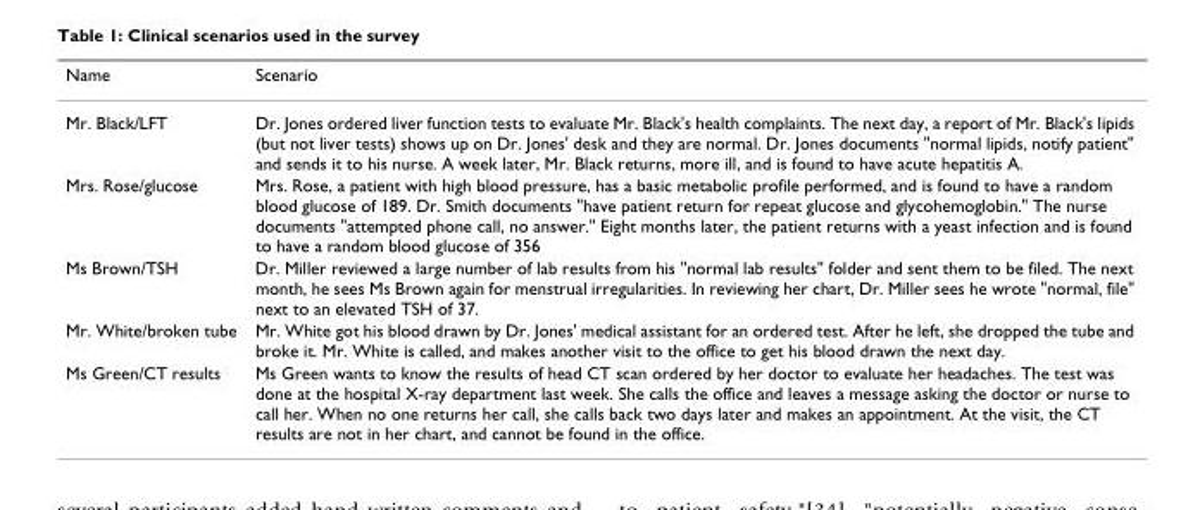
<table><thead><tr><td>Name</td><td>Scenario</td></tr></thead><tbody><tr><td>Mr. Black/LFT</td><td>Dr. Jones ordered liver function tests to evaluate Mr. Black&#x27;s health complaints. The next day, a report of Mr. Black&#x27;s lipids (but not liver tests) shows up on Dr. Jones&#x27; desk and they are normal. Dr. Jones documents &quot;normal lipids, notify patient&quot; and sends it to his nurse. A week later, Mr. Black returns, more ill, and is found to have acute hepatitis A.</td></tr><tr><td>Mrs. Rose/glucose</td><td>Mrs. Rose, a patient with high blood pressure, has a basic metabolic profile performed, and is found to have a random blood glucose of 189. Dr. Smith documents &quot;have patient return for repeat glucose and glycohemoglobin.&quot; The nurse documents &quot;attempted phone call, no answer.&quot; Eight months later, the patient returns with a yeast infection and is found to have a random blood glucose of 356</td></tr><tr><td>Ms Brown/TSH</td><td>Dr. Miller reviewed a large number of lab results from his &quot;normal lab results&quot; folder and sent them to be filed. The next month, he sees Ms Brown again for menstrual irregularities. In reviewing her chart, Dr. Miller sees he wrote &quot;normal, file&quot; next to an elevated TSH of 37.</td></tr><tr><td>Mr. White/broken tube</td><td>Mr. White got his blood drawn by Dr. Jones&#x27; medical assistant for an ordered test. After he left, she dropped the tube and broke it. Mr. White is called, and makes another visit to the office to get his blood drawn the next day.</td></tr><tr><td>Ms Green/CT results</td><td>Ms Green wants to know the results of head CT scan ordered by her doctor to evaluate her headaches. The test was done at the hospital X-ray department last week. She calls the office and leaves a message asking the doctor or nurse to call her. When no one returns her call, she calls back two days later and makes an appointment. At the visit, the CT results are not in her chart, and cannot be found in the office.</td></tr></tbody></table>